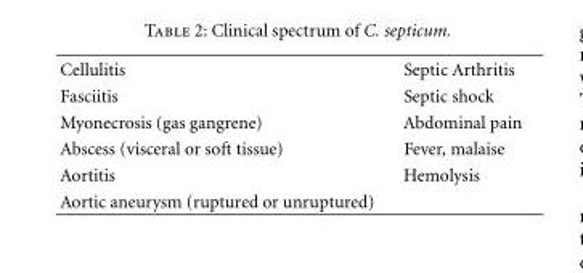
<table><tbody><tr><td>Cellulitis</td><td>Septic Arthritis</td></tr><tr><td>Fasciitis</td><td>Septic shock</td></tr><tr><td>Myonecrosis (gas gangrene)</td><td>Abdominal pain</td></tr><tr><td>Abscess (visceral or soft tissue)</td><td>Fever, malaise</td></tr><tr><td>Aortitis</td><td>Hemolysis</td></tr><tr><td>Aortic aneurysm (ruptured or unruptured)</td><td></td></tr></tbody></table>